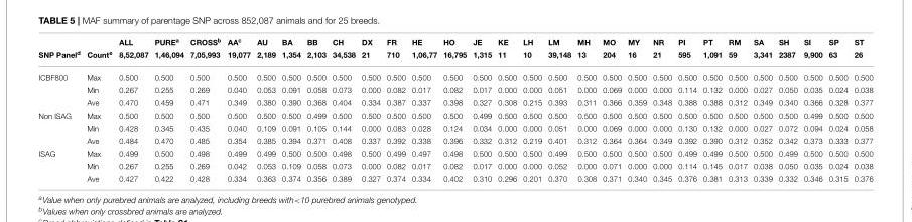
<table><thead><tr><td rowspan="2">SNP Panel<sup>d</sup></td><td rowspan="2">Count<sup>e</sup></td><td rowspan="2">ALL 8,52,087</td><td rowspan="2">PURE<sup>a</sup> 1,46,094</td><td rowspan="2">CROSS<sup>b</sup> 7,05,993</td><td rowspan="2">AA<sup>c</sup> 19,077</td><td rowspan="2">AU 2,189</td><td rowspan="2">BA 1,354</td><td rowspan="2">BB 2,103</td><td rowspan="2">CH 34,538</td><td rowspan="2">DX 21</td><td rowspan="2">FR 710</td><td rowspan="2">HE 1,06,77</td><td rowspan="2">HO 16,795</td><td rowspan="2">JE 1,315</td><td rowspan="2">KE 11</td><td rowspan="2">LH 10</td><td rowspan="2">LM 39,148</td><td rowspan="2">MH 13</td><td rowspan="2">MO 204</td><td rowspan="2">MY 16</td><td rowspan="2">NR 21</td><td rowspan="2">PI 595</td><td rowspan="2">PT 1,091</td><td rowspan="2">RM 59</td><td rowspan="2">SA 3,341</td><td rowspan="2">SH 2387</td><td rowspan="2">SI 9,900</td><td rowspan="2">SP 63</td><td rowspan="2">ST 26</td></tr><tr></tr></thead><tbody><tr><td rowspan="3">ICBF800</td><td>Max</td><td>0.500</td><td>0.500</td><td>0.500</td><td>0.500</td><td>0.500</td><td>0.500</td><td>0.500</td><td>0.500</td><td>0.500</td><td>0.500</td><td>0.500</td><td>0.500</td><td>0.500</td><td>0.500</td><td>0.500</td><td>0.500</td><td>0.500</td><td>0.500</td><td>0.500</td><td>0.500</td><td>0.500</td><td>0.500</td><td>0.500</td><td>0.500</td><td>0.500</td><td>0.500</td><td>0.500</td><td>0.500</td></tr><tr><td>Min</td><td>0.267</td><td>0.255</td><td>0.269</td><td>0.040</td><td>0.053</td><td>0.091</td><td>0.058</td><td>0.073</td><td>0.000</td><td>0.082</td><td>0.017</td><td>0.082</td><td>0.017</td><td>0.000</td><td>0.000</td><td>0.051</td><td>0.000</td><td>0.069</td><td>0.000</td><td>0.000</td><td>0.114</td><td>0.132</td><td>0.000</td><td>0.027</td><td>0.050</td><td>0.035</td><td>0.024</td><td>0.038</td></tr><tr><td>Ave</td><td>0.470</td><td>0.459</td><td>0.471</td><td>0.349</td><td>0.380</td><td>0.390</td><td>0.368</td><td>0.404</td><td>0.334</td><td>0.387</td><td>0.337</td><td>0.398</td><td>0.327</td><td>0.308</td><td>0.215</td><td>0.393</td><td>0.311</td><td>0.366</td><td>0.359</td><td>0.348</td><td>0.388</td><td>0.388</td><td>0.312</td><td>0.349</td><td>0.340</td><td>0.366</td><td>0.328</td><td>0.377</td></tr><tr><td rowspan="3">Non ISAG</td><td>Max</td><td>0.500</td><td>0.500</td><td>0.500</td><td>0.500</td><td>0.500</td><td>0.500</td><td>0.499</td><td>0.500</td><td>0.500</td><td>0.500</td><td>0.500</td><td>0.500</td><td>0.499</td><td>0.500</td><td>0.500</td><td>0.500</td><td>0.500</td><td>0.500</td><td>0.500</td><td>0.500</td><td>0.500</td><td>0.500</td><td>0.500</td><td>0.500</td><td>0.500</td><td>0.499</td><td>0.500</td><td>0.500</td></tr><tr><td>Min</td><td>0.428</td><td>0.345</td><td>0.435</td><td>0.040</td><td>0.109</td><td>0.091</td><td>0.105</td><td>0.144</td><td>0.000</td><td>0.083</td><td>0.028</td><td>0.124</td><td>0.034</td><td>0.000</td><td>0.000</td><td>0.051</td><td>0.000</td><td>0.069</td><td>0.000</td><td>0.000</td><td>0.130</td><td>0.132</td><td>0.000</td><td>0.027</td><td>0.072</td><td>0.094</td><td>0.024</td><td>0.058</td></tr><tr><td>Ave</td><td>0.484</td><td>0.470</td><td>0.485</td><td>0.354</td><td>0.385</td><td>0.394</td><td>0.371</td><td>0.408</td><td>0.337</td><td>0.392</td><td>0.338</td><td>0.396</td><td>0.332</td><td>0.312</td><td>0.219</td><td>0.401</td><td>0.312</td><td>0.364</td><td>0.364</td><td>0.349</td><td>0.392</td><td>0.390</td><td>0.312</td><td>0.352</td><td>0.342</td><td>0.373</td><td>0.333</td><td>0.377</td></tr><tr><td rowspan="3">ISAG</td><td>Max</td><td>0.499</td><td>0.500</td><td>0.498</td><td>0.499</td><td>0.499</td><td>0.500</td><td>0.500</td><td>0.498</td><td>0.500</td><td>0.499</td><td>0.497</td><td>0.498</td><td>0.500</td><td>0.500</td><td>0.500</td><td>0.499</td><td>0.500</td><td>0.500</td><td>0.500</td><td>0.500</td><td>0.499</td><td>0.499</td><td>0.500</td><td>0.500</td><td>0.499</td><td>0.500</td><td>0.500</td><td>0.500</td></tr><tr><td>Min</td><td>0.267</td><td>0.255</td><td>0.269</td><td>0.042</td><td>0.053</td><td>0.109</td><td>0.058</td><td>0.073</td><td>0.000</td><td>0.082</td><td>0.017</td><td>0.082</td><td>0.017</td><td>0.000</td><td>0.000</td><td>0.052</td><td>0.000</td><td>0.071</td><td>0.000</td><td>0.000</td><td>0.114</td><td>0.145</td><td>0.017</td><td>0.038</td><td>0.050</td><td>0.035</td><td>0.024</td><td>0.038</td></tr><tr><td>Ave</td><td>0.427</td><td>0.422</td><td>0.428</td><td>0.334</td><td>0.363</td><td>0.374</td><td>0.356</td><td>0.389</td><td>0.327</td><td>0.374</td><td>0.334</td><td>0.402</td><td>0.310</td><td>0.296</td><td>0.201</td><td>0.370</td><td>0.308</td><td>0.371</td><td>0.340</td><td>0.345</td><td>0.376</td><td>0.381</td><td>0.313</td><td>0.339</td><td>0.332</td><td>0.346</td><td>0.315</td><td>0.376</td></tr></tbody></table>